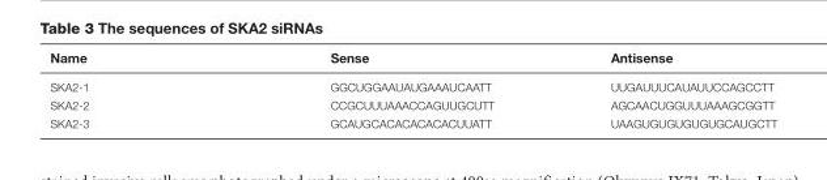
<table><thead><tr><td>Name</td><td>Sense</td><td>Antisense</td></tr></thead><tbody><tr><td>SKA2-1</td><td>GGCUGGAAUAUGAAAUCAATT</td><td>UUGAUUUCAUAUUCCAGCCTT</td></tr><tr><td>SKA2-2</td><td>CCGCUUUAAACCAGUUGCUTT</td><td>AGCAACUGGUUUAAAGCGGTT</td></tr><tr><td>SKA2-3</td><td>GCAUGCACACACACACUUATT</td><td>UAAGUGUGUGUGUGCAUGCTT</td></tr></tbody></table>